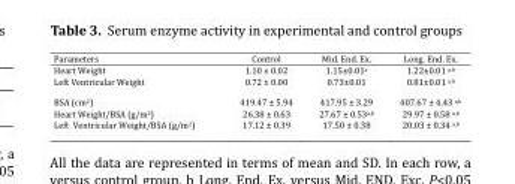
<table><thead><tr><td>Parameters</td><td>Control</td><td>Mid. End. Ex.</td><td>Long. End. Ex.</td></tr></thead><tbody><tr><td>Heart Weight</td><td>1.10 ± 0.02</td><td>1.15±0.01<sup>a</sup></td><td>1.22±0.01 <sup>a</sup>,<sup>b</sup></td></tr><tr><td>Left Ventricular Weight</td><td>0.72 ± 0.00</td><td>0.73±0.01</td><td>0.81±0.01 <sup>a</sup>,<sup>b</sup></td></tr><tr><td>BSA (cm2)</td><td>419.47 ± 5.94</td><td>417.95 ± 3.29</td><td>407.67 ± 4.43 <sup>a</sup>,<sup>b</sup></td></tr><tr><td>Heart Weight/BSA (g/m2)</td><td>26.38 ± 0.63</td><td>27.67 ± 0.53<sup>a</sup>,<sup>b</sup></td><td>29.97 ± 0.58 <sup>a</sup>,<sup>b</sup></td></tr><tr><td>Left Ventricular Weight/BSA (g/m2)</td><td>17.12 ± 0.39</td><td>17.50 ± 0.38</td><td>20.03 ± 0.34 <sup>a</sup>,<sup>b</sup></td></tr></tbody></table>